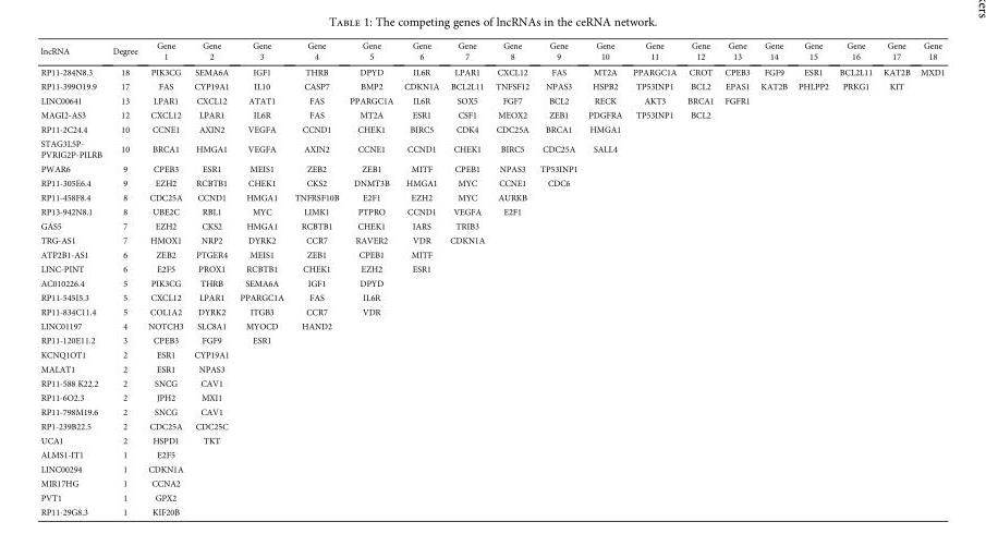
<table><thead><tr><td>lncRNA</td><td>Degree</td><td>Gene 1</td><td>Gene 2</td><td>Gene 3</td><td>Gene 4</td><td>Gene 5</td><td>Gene 6</td><td>Gene 7</td><td>Gene 8</td><td>Gene 9</td><td>Gene 10</td><td>Gene 11</td><td>Gene 12</td><td>Gene 13</td><td>Gene 14</td><td>Gene 15</td><td>Gene 16</td><td>Gene 17</td><td>Gene 18</td></tr></thead><tbody><tr><td>RP11-284N8.3</td><td>18</td><td>PIK3CG</td><td>SEMA6A</td><td>IGF1</td><td>THRB</td><td>DPYD</td><td>IL6R</td><td>LPAR1</td><td>CXCL12</td><td>FAS</td><td>MT2A</td><td>PPARGC1A</td><td>CROT</td><td>CPEB3</td><td>FGF9</td><td>ESR1</td><td>BCL2L11</td><td>KAT2B</td><td>MXD1</td></tr><tr><td>RP11-399O19.9</td><td>17</td><td>FAS</td><td>CYP19A1</td><td>IL10</td><td>CASP7</td><td>BMP2</td><td>CDKN1A</td><td>BCL2L11</td><td>TNFSF12</td><td>NPAS3</td><td>HSPB2</td><td>TP53INP1</td><td>BCL2</td><td>EPAS1</td><td>KAT2B</td><td>PHLPP2</td><td>PRKG1</td><td>KIT</td><td></td></tr><tr><td>LINC00641</td><td>13</td><td>LPAR1</td><td>CXCL12</td><td>ATAT1</td><td>FAS</td><td>PPARGC1A</td><td>IL6R</td><td>SOX5</td><td>FGF7</td><td>BCL2</td><td>RECK</td><td>AKT3</td><td>BRCA1</td><td>FGFR1</td><td></td><td></td><td></td><td></td><td></td></tr><tr><td>MAGI2-AS3</td><td>12</td><td>CXCL12</td><td>LPAR1</td><td>IL6R</td><td>FAS</td><td>MT2A</td><td>ESR1</td><td>CSF1</td><td>MEOX2</td><td>ZEB1</td><td>PDGFRA</td><td>TP53INP1</td><td>BCL2</td><td></td><td></td><td></td><td></td><td></td><td></td></tr><tr><td>RP11-2C24.4</td><td>10</td><td>CCNE1</td><td>AXIN2</td><td>VEGFA</td><td>CCND1</td><td>CHEK1</td><td>BIRC5</td><td>CDK4</td><td>CDC25A</td><td>BRCA1</td><td>HMGA1</td><td></td><td></td><td></td><td></td><td></td><td></td><td></td><td></td></tr><tr><td>STAG3L5P- PVRIG2P-PILRB</td><td>10</td><td>BRCA1</td><td>HMGA1</td><td>VEGFA</td><td>AXIN2</td><td>CCNE1</td><td>CCND1</td><td>CHEK1</td><td>BIRC5</td><td>CDC25A</td><td>SALL4</td><td></td><td></td><td></td><td></td><td></td><td></td><td></td><td></td></tr><tr><td>PWAR6</td><td>9</td><td>CPEB3</td><td>ESR1</td><td>MEIS1</td><td>ZEB2</td><td>ZEB1</td><td>MITF</td><td>CPEB1</td><td>NPAS3</td><td>TP53INP1</td><td></td><td></td><td></td><td></td><td></td><td></td><td></td><td></td><td></td></tr><tr><td>RP11-305E6.4</td><td>9</td><td>EZH2</td><td>RCBTB1</td><td>CHEK1</td><td>CKS2</td><td>DNMT3B</td><td>HMGA1</td><td>MYC</td><td>CCNE1</td><td>CDC6</td><td></td><td></td><td></td><td></td><td></td><td></td><td></td><td></td><td></td></tr><tr><td>RP11-458F8.4</td><td>8</td><td>CDC25A</td><td>CCND1</td><td>HMGA1</td><td>TNFRSF10B</td><td>E2F1</td><td>EZH2</td><td>MYC</td><td>AURKB</td><td></td><td></td><td></td><td></td><td></td><td></td><td></td><td></td><td></td><td></td></tr><tr><td>RP13-942N8.1</td><td>8</td><td>UBE2C</td><td>RBL1</td><td>MYC</td><td>LIMK1</td><td>PTPRO</td><td>CCND1</td><td>VEGFA</td><td>E2F1</td><td></td><td></td><td></td><td></td><td></td><td></td><td></td><td></td><td></td><td></td></tr><tr><td>GAS5</td><td>7</td><td>EZH2</td><td>CKS2</td><td>HMGA1</td><td>RCBTB1</td><td>CHEK1</td><td>IARS</td><td>TRIB3</td><td></td><td></td><td></td><td></td><td></td><td></td><td></td><td></td><td></td><td></td><td></td></tr><tr><td>TRG-AS1</td><td>7</td><td>HMOX1</td><td>NRP2</td><td>DYRK2</td><td>CCR7</td><td>RAVER2</td><td>VDR</td><td>CDKN1A</td><td></td><td></td><td></td><td></td><td></td><td></td><td></td><td></td><td></td><td></td><td></td></tr><tr><td>ATP2B1-AS1</td><td>6</td><td>ZEB2</td><td>PTGER4</td><td>MEIS1</td><td>ZEB1</td><td>CPEB1</td><td>MITF</td><td></td><td></td><td></td><td></td><td></td><td></td><td></td><td></td><td></td><td></td><td></td><td></td></tr><tr><td>LINC-PINT</td><td>6</td><td>E2F5</td><td>PROX1</td><td>RCBTB1</td><td>CHEK1</td><td>EZH2</td><td>ESR1</td><td></td><td></td><td></td><td></td><td></td><td></td><td></td><td></td><td></td><td></td><td></td><td></td></tr><tr><td>AC010226.4</td><td>5</td><td>PIK3CG</td><td>THRB</td><td>SEMA6A</td><td>IGF1</td><td>DPYD</td><td></td><td></td><td></td><td></td><td></td><td></td><td></td><td></td><td></td><td></td><td></td><td></td><td></td></tr><tr><td>RP11-545I5.3</td><td>5</td><td>CXCL12</td><td>LPAR1</td><td>PPARGC1A</td><td>FAS</td><td>IL6R</td><td></td><td></td><td></td><td></td><td></td><td></td><td></td><td></td><td></td><td></td><td></td><td></td><td></td></tr><tr><td>RP11-834C11.4</td><td>5</td><td>COL1A2</td><td>DYRK2</td><td>ITGB3</td><td>CCR7</td><td>VDR</td><td></td><td></td><td></td><td></td><td></td><td></td><td></td><td></td><td></td><td></td><td></td><td></td><td></td></tr><tr><td>LINC01197</td><td>4</td><td>NOTCH3</td><td>SLC8A1</td><td>MYOCD</td><td>HAND2</td><td></td><td></td><td></td><td></td><td></td><td></td><td></td><td></td><td></td><td></td><td></td><td></td><td></td><td></td></tr><tr><td>RP11-120E11.2</td><td>3</td><td>CPEB3</td><td>FGF9</td><td>ESR1</td><td></td><td></td><td></td><td></td><td></td><td></td><td></td><td></td><td></td><td></td><td></td><td></td><td></td><td></td><td></td></tr><tr><td>KCNQ1OT1</td><td>2</td><td>ESR1</td><td>CYP19A1</td><td></td><td></td><td></td><td></td><td></td><td></td><td></td><td></td><td></td><td></td><td></td><td></td><td></td><td></td><td></td><td></td></tr><tr><td>MALAT1</td><td>2</td><td>ESR1</td><td>NPAS3</td><td></td><td></td><td></td><td></td><td></td><td></td><td></td><td></td><td></td><td></td><td></td><td></td><td></td><td></td><td></td><td></td></tr><tr><td>RP11-588 K22.2</td><td>2</td><td>SNCG</td><td>CAV1</td><td></td><td></td><td></td><td></td><td></td><td></td><td></td><td></td><td></td><td></td><td></td><td></td><td></td><td></td><td></td><td></td></tr><tr><td>RP11-6O2.3</td><td>2</td><td>JPH2</td><td>MXI1</td><td></td><td></td><td></td><td></td><td></td><td></td><td></td><td></td><td></td><td></td><td></td><td></td><td></td><td></td><td></td><td></td></tr><tr><td>RP11-798M19.6</td><td>2</td><td>SNCG</td><td>CAV1</td><td></td><td></td><td></td><td></td><td></td><td></td><td></td><td></td><td></td><td></td><td></td><td></td><td></td><td></td><td></td><td></td></tr><tr><td>RP1-239B22.5</td><td>2</td><td>CDC25A</td><td>CDC25C</td><td></td><td></td><td></td><td></td><td></td><td></td><td></td><td></td><td></td><td></td><td></td><td></td><td></td><td></td><td></td><td></td></tr><tr><td>UCA1</td><td>2</td><td>HSPD1</td><td>TKT</td><td></td><td></td><td></td><td></td><td></td><td></td><td></td><td></td><td></td><td></td><td></td><td></td><td></td><td></td><td></td><td></td></tr><tr><td>ALMS1-IT1</td><td>1</td><td>E2F5</td><td></td><td></td><td></td><td></td><td></td><td></td><td></td><td></td><td></td><td></td><td></td><td></td><td></td><td></td><td></td><td></td><td></td></tr><tr><td>LINC00294</td><td>1</td><td>CDKN1A</td><td></td><td></td><td></td><td></td><td></td><td></td><td></td><td></td><td></td><td></td><td></td><td></td><td></td><td></td><td></td><td></td><td></td></tr><tr><td>MIR17HG</td><td>1</td><td>CCNA2</td><td></td><td></td><td></td><td></td><td></td><td></td><td></td><td></td><td></td><td></td><td></td><td></td><td></td><td></td><td></td><td></td><td></td></tr><tr><td>PVT1</td><td>1</td><td>GPX2</td><td></td><td></td><td></td><td></td><td></td><td></td><td></td><td></td><td></td><td></td><td></td><td></td><td></td><td></td><td></td><td></td><td></td></tr><tr><td>RP11-29G8.3</td><td>1</td><td>KIF20B</td><td></td><td></td><td></td><td></td><td></td><td></td><td></td><td></td><td></td><td></td><td></td><td></td><td></td><td></td><td></td><td></td><td></td></tr></tbody></table>